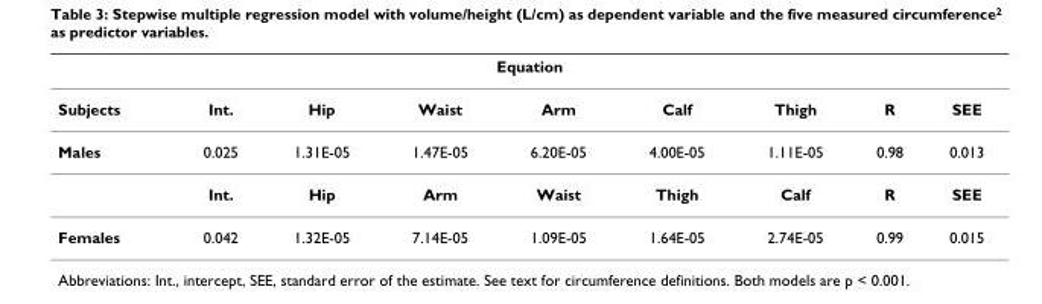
<table><thead><tr><td colspan="9">Equation</td></tr><tr><td>Subjects</td><td>Int.</td><td>Hip</td><td>Waist</td><td>Arm</td><td>Calf</td><td>Thigh</td><td>R</td><td>SEE</td></tr></thead><tbody><tr><td rowspan="2">Males</td><td>0.025</td><td>1.31E-05</td><td>1.47E-05</td><td>6.20E-05</td><td>4.00E-05</td><td>1.11E-05</td><td>0.98</td><td>0.013</td></tr><tr><td>Int.</td><td>Hip</td><td>Arm</td><td>Waist</td><td>Thigh</td><td>Calf</td><td>R</td><td>SEE</td></tr><tr><td>Females</td><td>0.042</td><td>1.32E-05</td><td>7.14E-05</td><td>1.09E-05</td><td>1.64E-05</td><td>2.74E-05</td><td>0.99</td><td>0.015</td></tr></tbody></table>